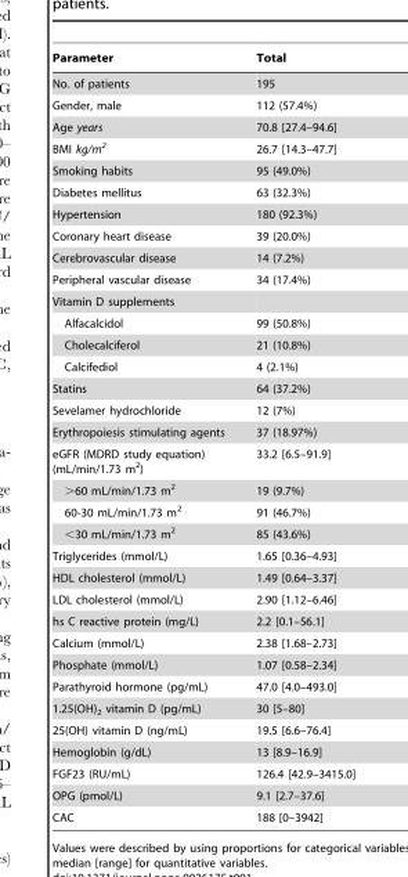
<table><thead><tr><td>Parameter</td><td>Total</td></tr></thead><tbody><tr><td>No. of patients</td><td>195</td></tr><tr><td>Gender, male</td><td>112 (57.4%)</td></tr><tr><td>Age years</td><td>70.8 [27.4–94.6]</td></tr><tr><td>BMI kg/m<sup>2</sup></td><td>26.7 [14.3–47.7]</td></tr><tr><td>Smoking habits</td><td>95 (49.0%)</td></tr><tr><td>Diabetes mellitus</td><td>63 (32.3%)</td></tr><tr><td>Hypertension</td><td>180 (92.3%)</td></tr><tr><td>Coronary heart disease</td><td>39 (20.0%)</td></tr><tr><td>Cerebrovascular disease</td><td>14 (7.2%)</td></tr><tr><td>Peripheral vascular disease</td><td>34 (17.4%)</td></tr><tr><td colspan="2">Vitamin D supplements</td></tr><tr><td>Alfacalcidol</td><td>99 (50.8%)</td></tr><tr><td>Cholecalciferol</td><td>21 (10.8%)</td></tr><tr><td>Calcifediol</td><td>4 (2.1%)</td></tr><tr><td>Statins</td><td>64 (37.2%)</td></tr><tr><td>Sevelamer hydrochloride</td><td>12 (7%)</td></tr><tr><td>Erythropoiesis stimulating agents</td><td>37 (18.97%)</td></tr><tr><td>eGFR (MDRD study equation) (mL/min/1.73 m<sup>2</sup>)</td><td>33.2 [6.5–91.9]</td></tr><tr><td>&gt;60 mL/min/1.73 m<sup>2</sup></td><td>19 (9.7%)</td></tr><tr><td>60-30 mL/min/1.73 m<sup>2</sup></td><td>91 (46.7%)</td></tr><tr><td>&lt;30 mL/min/1.73 m<sup>2</sup></td><td>85 (43.6%)</td></tr><tr><td>Triglycerides (mmol/L)</td><td>1.65 [0.36–4.93]</td></tr><tr><td>HDL cholesterol (mmol/L)</td><td>1.49 [0.64–3.37]</td></tr><tr><td>LDL cholesterol (mmol/L)</td><td>2.90 [1.12–6.46]</td></tr><tr><td>hs C reactive protein (mg/L)</td><td>2.2 [0.1–56.1]</td></tr><tr><td>Calcium (mmol/L)</td><td>2.38 [1.68–2.73]</td></tr><tr><td>Phosphate (mmol/L)</td><td>1.07 [0.58–2.34]</td></tr><tr><td>Parathyroid hormone (pg/mL)</td><td>47.0 [4.0–493.0]</td></tr><tr><td>1.25(OH)<sub>2</sub> vitamin D (pg/mL)</td><td>30 [5–80]</td></tr><tr><td>25(OH) vitamin D (ng/mL)</td><td>19.5 [6.6–76.4]</td></tr><tr><td>Hemoglobin (g/dL)</td><td>13 [8.9–16.9]</td></tr><tr><td>FGF23 (RU/mL)</td><td>126.4 [42.9–3415.0]</td></tr><tr><td>OPG (pmol/L)</td><td>9.1 [2.7–37.6]</td></tr><tr><td>CAC</td><td>188 [0–3942]</td></tr></tbody></table>